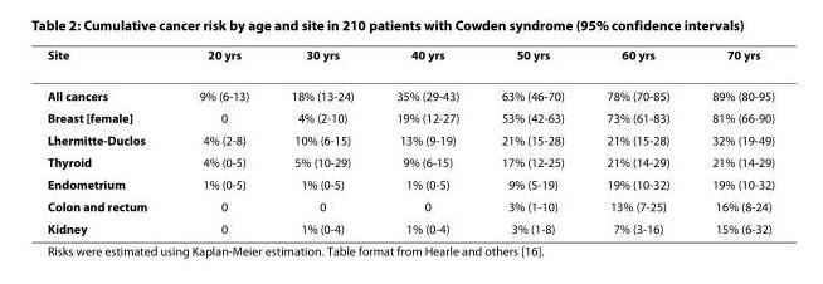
<table><thead><tr><td>Site</td><td>20 yrs</td><td>30 yrs</td><td>40 yrs</td><td>50 yrs</td><td>60 yrs</td><td>70 yrs</td></tr></thead><tbody><tr><td>All cancers</td><td>9% (6-13)</td><td>18% (13-24)</td><td>35% (29-43)</td><td>63% (46-70)</td><td>78% (70-85)</td><td>89% (80-95)</td></tr><tr><td>Breast [female]</td><td>0</td><td>4% (2-10)</td><td>19% (12-27)</td><td>53% (42-63)</td><td>73% (61-83)</td><td>81% (66-90)</td></tr><tr><td>Lhermitte-Duclos</td><td>4% (2-8)</td><td>10% (6-15)</td><td>13% (9-19)</td><td>21% (15-28)</td><td>21% (15-28)</td><td>32% (19-49)</td></tr><tr><td>Thyroid</td><td>4% (0-5)</td><td>5% (10-29)</td><td>9% (6-15)</td><td>17% (12-25)</td><td>21% (14-29)</td><td>21% (14-29)</td></tr><tr><td>Endometrium</td><td>1% (0-5)</td><td>1% (0-5)</td><td>1% (0-5)</td><td>9% (5-19)</td><td>19% (10-32)</td><td>19% (10-32)</td></tr><tr><td>Colon and rectum</td><td>0</td><td>0</td><td>0</td><td>3% (1-10)</td><td>13% (7-25)</td><td>16% (8-24)</td></tr><tr><td>Kidney</td><td>0</td><td>1% (0-4)</td><td>1% (0-4)</td><td>3% (1-8)</td><td>7% (3-16)</td><td>15% (6-32)</td></tr></tbody></table>